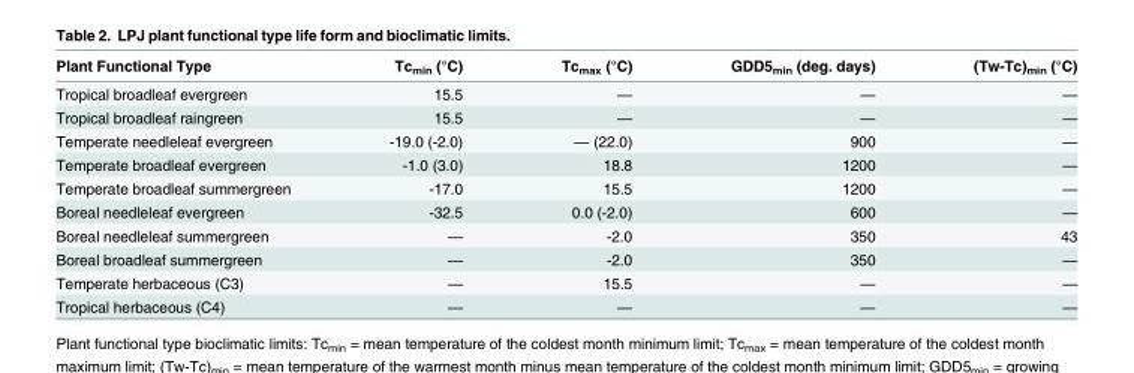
<table><thead><tr><td>Plant Functional Type</td><td>Tc<sub>min</sub> (°C)</td><td>Tc<sub>max</sub> (°C)</td><td>GDD5<sub>min</sub> (deg. days)</td><td>(Tw-Tc)<sub>min</sub> (°C)</td></tr></thead><tbody><tr><td>Tropical broadleaf evergreen</td><td>15.5</td><td>—</td><td>—</td><td>—</td></tr><tr><td>Tropical broadleaf raingreen</td><td>15.5</td><td>—</td><td>—</td><td>—</td></tr><tr><td>Temperate needleleaf evergreen</td><td>-19.0 (-2.0)</td><td>— (22.0)</td><td>900</td><td>—</td></tr><tr><td>Temperate broadleaf evergreen</td><td>-1.0 (3.0)</td><td>18.8</td><td>1200</td><td>—</td></tr><tr><td>Temperate broadleaf summergreen</td><td>-17.0</td><td>15.5</td><td>1200</td><td>—</td></tr><tr><td>Boreal needleleaf evergreen</td><td>-32.5</td><td>0.0 (-2.0)</td><td>600</td><td>—</td></tr><tr><td>Boreal needleleaf summergreen</td><td>—</td><td>-2.0</td><td>350</td><td>43</td></tr><tr><td>Boreal broadleaf summergreen</td><td>—</td><td>-2.0</td><td>350</td><td>—</td></tr><tr><td>Temperate herbaceous (C3)</td><td>—</td><td>15.5</td><td>—</td><td>—</td></tr><tr><td>Tropical herbaceous (C4)</td><td>—</td><td>—</td><td>—</td><td>—</td></tr></tbody></table>